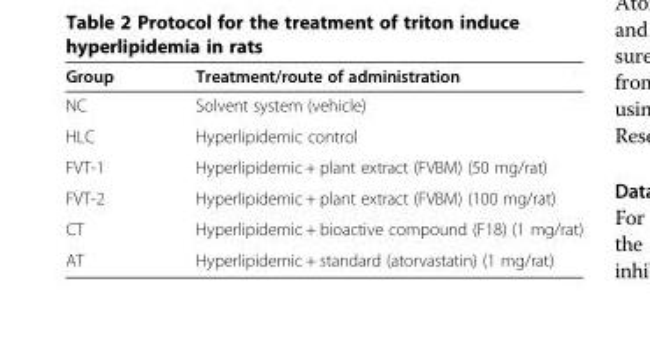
<table><thead><tr><td>Group</td><td>Treatment/route of administration</td></tr></thead><tbody><tr><td>NC</td><td>Solvent system (vehicle)</td></tr><tr><td>HLC</td><td>Hyperlipidemic control</td></tr><tr><td>FVT-1</td><td>Hyperlipidemic + plant extract (FVBM) (50 mg/rat)</td></tr><tr><td>FVT-2</td><td>Hyperlipidemic + plant extract (FVBM) (100 mg/rat)</td></tr><tr><td>CT</td><td>Hyperlipidemic + bioactive compound (F18) (1 mg/rat)</td></tr><tr><td>AT</td><td>Hyperlipidemic + standard (atorvastatin) (1 mg/rat)</td></tr></tbody></table>